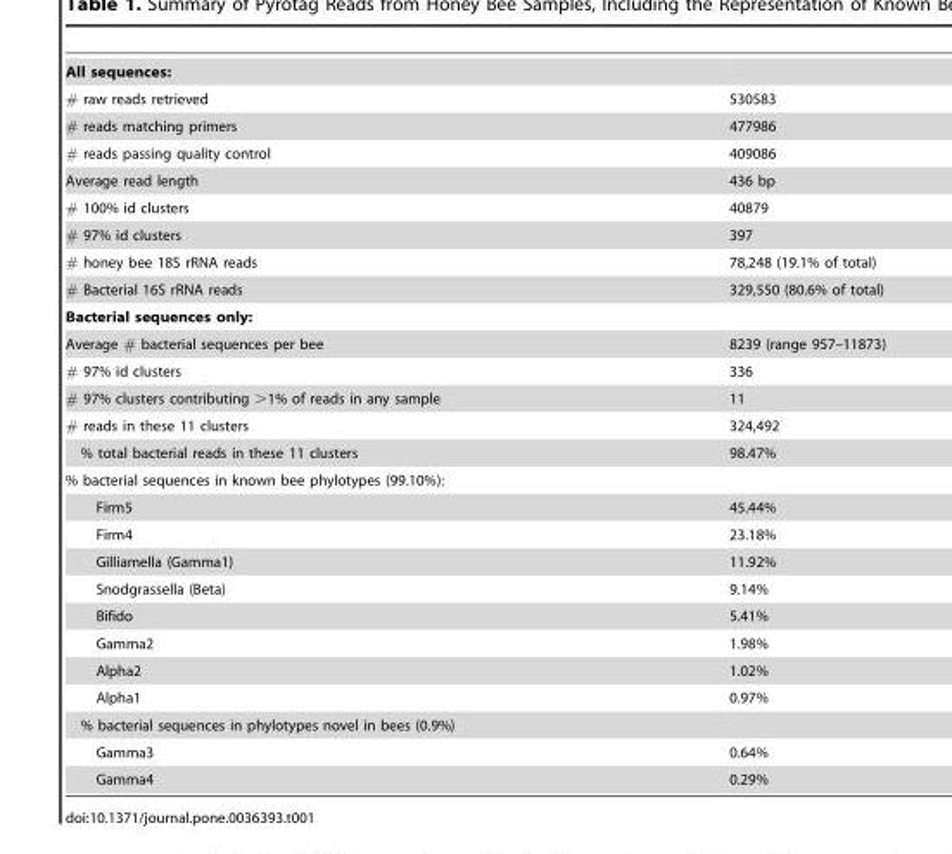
<table><tbody><tr><td colspan="2">All sequences:</td></tr><tr><td># raw reads retrieved</td><td>530583</td></tr><tr><td># reads matching primers</td><td>477986</td></tr><tr><td># reads passing quality control</td><td>409086</td></tr><tr><td>Average read length</td><td>436 bp</td></tr><tr><td># 100% id clusters</td><td>40879</td></tr><tr><td># 97% id clusters</td><td>397</td></tr><tr><td># honey bee 18S rRNA reads</td><td>78,248 (19.1% of total)</td></tr><tr><td># Bacterial 16S rRNA reads</td><td>329,550 (80.6% of total)</td></tr><tr><td colspan="2">Bacterial sequences only:</td></tr><tr><td>Average # bacterial sequences per bee</td><td>8239 (range 957–11873)</td></tr><tr><td># 97% id clusters</td><td>336</td></tr><tr><td># 97% clusters contributing &gt;1% of reads in any sample</td><td>11</td></tr><tr><td># reads in these 11 clusters</td><td>324,492</td></tr><tr><td>% total bacterial reads in these 11 clusters</td><td>98.47%</td></tr><tr><td colspan="2">% bacterial sequences in known bee phylotypes (99.10%):</td></tr><tr><td>Firm5</td><td>45.44%</td></tr><tr><td>Firm4</td><td>23.18%</td></tr><tr><td>Gilliamella (Gamma1)</td><td>11.92%</td></tr><tr><td>Snodgrassella (Beta)</td><td>9.14%</td></tr><tr><td>Bifido</td><td>5.41%</td></tr><tr><td>Gamma2</td><td>1.98%</td></tr><tr><td>Alpha2</td><td>1.02%</td></tr><tr><td>Alpha1</td><td>0.97%</td></tr><tr><td colspan="2">% bacterial sequences in phylotypes novel in bees (0.9%)</td></tr><tr><td>Gamma3</td><td>0.64%</td></tr><tr><td>Gamma4</td><td>0.29%</td></tr></tbody></table>